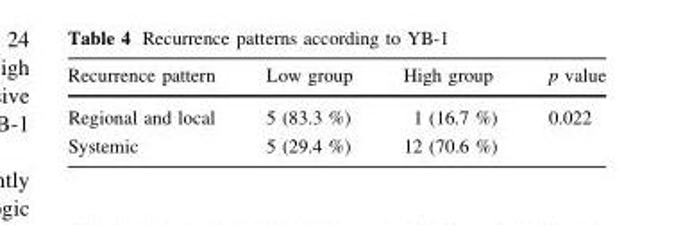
<table><thead><tr><td>Recurrence pattern</td><td>Low group</td><td>High group</td><td>p value</td></tr></thead><tbody><tr><td>Regional and local</td><td>5 (83.3 %)</td><td>1 (16.7 %)</td><td>0.022</td></tr><tr><td>Systemic</td><td>5 (29.4 %)</td><td>12 (70.6 %)</td><td></td></tr></tbody></table>